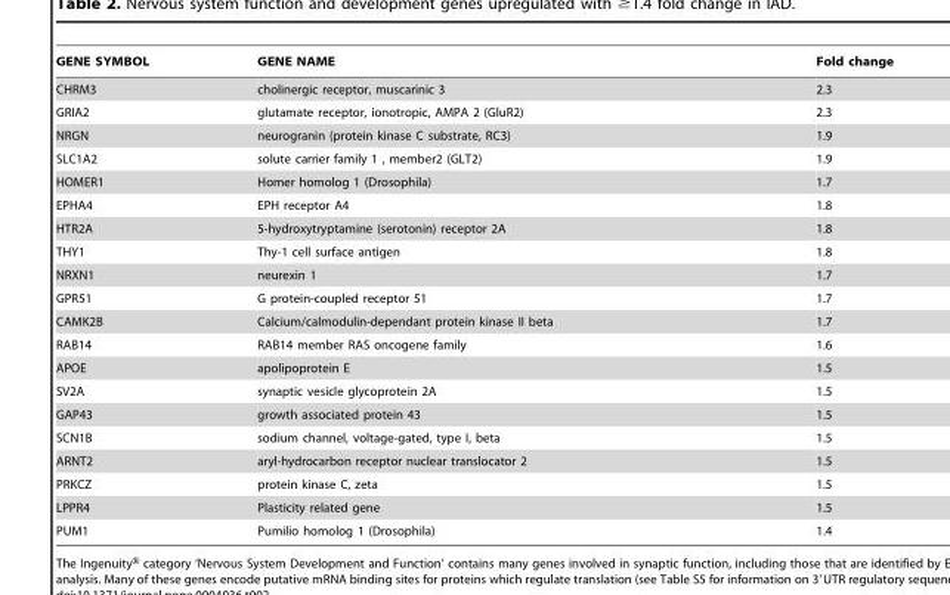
<table><thead><tr><td>GENE SYMBOL</td><td>GENE NAME</td><td>Fold change</td></tr></thead><tbody><tr><td>CHRM3</td><td>cholinergic receptor, muscarinic 3</td><td>2.3</td></tr><tr><td>GRIA2</td><td>glutamate receptor, ionotropic, AMPA 2 (GluR2)</td><td>2.3</td></tr><tr><td>NRGN</td><td>neurogranin (protein kinase C substrate, RC3)</td><td>1.9</td></tr><tr><td>SLC1A2</td><td>solute carrier family 1 , member2 (GLT2)</td><td>1.9</td></tr><tr><td>HOMER1</td><td>Homer homolog 1 (Drosophila)</td><td>1.7</td></tr><tr><td>EPHA4</td><td>EPH receptor A4</td><td>1.8</td></tr><tr><td>HTR2A</td><td>5-hydroxytryptamine (serotonin) receptor 2A</td><td>1.8</td></tr><tr><td>THY1</td><td>Thy-1 cell surface antigen</td><td>1.8</td></tr><tr><td>NRXN1</td><td>neurexin 1</td><td>1.7</td></tr><tr><td>GPR51</td><td>G protein-coupled receptor 51</td><td>1.7</td></tr><tr><td>CAMK2B</td><td>Calcium/calmodulin-dependant protein kinase II beta</td><td>1.7</td></tr><tr><td>RAB14</td><td>RAB14 member RAS oncogene family</td><td>1.6</td></tr><tr><td>APOE</td><td>apolipoprotein E</td><td>1.5</td></tr><tr><td>SV2A</td><td>synaptic vesicle glycoprotein 2A</td><td>1.5</td></tr><tr><td>GAP43</td><td>growth associated protein 43</td><td>1.5</td></tr><tr><td>SCN1B</td><td>sodium channel, voltage-gated, type I, beta</td><td>1.5</td></tr><tr><td>ARNT2</td><td>aryl-hydrocarbon receptor nuclear translocator 2</td><td>1.5</td></tr><tr><td>PRKCZ</td><td>protein kinase C, zeta</td><td>1.5</td></tr><tr><td>LPPR4</td><td>Plasticity related gene</td><td>1.5</td></tr><tr><td>PUM1</td><td>Pumilio homolog 1 (Drosophila)</td><td>1.4</td></tr></tbody></table>